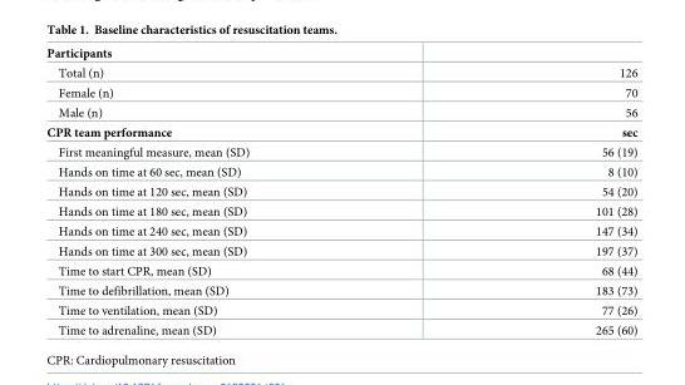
<table><tbody><tr><td colspan="2">Participants</td></tr><tr><td>Total (n)</td><td>126</td></tr><tr><td>Female (n)</td><td>70</td></tr><tr><td>Male (n)</td><td>56</td></tr><tr><td>CPR team performance</td><td>sec</td></tr><tr><td>First meaningful measure, mean (SD)</td><td>56 (19)</td></tr><tr><td>Hands on time at 60 sec, mean (SD)</td><td>8 (10)</td></tr><tr><td>Hands on time at 120 sec, mean (SD)</td><td>54 (20)</td></tr><tr><td>Hands on time at 180 sec, mean (SD)</td><td>101 (28)</td></tr><tr><td>Hands on time at 240 sec, mean (SD)</td><td>147 (34)</td></tr><tr><td>Hands on time at 300 sec, mean (SD)</td><td>197 (37)</td></tr><tr><td>Time to start CPR, mean (SD)</td><td>68 (44)</td></tr><tr><td>Time to defibrillation, mean (SD)</td><td>183 (73)</td></tr><tr><td>Time to ventilation, mean (SD)</td><td>77 (26)</td></tr><tr><td>Time to adrenaline, mean (SD)</td><td>265 (60)</td></tr></tbody></table>